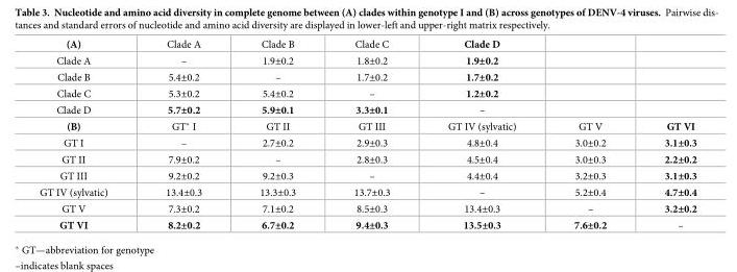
<table><tbody><tr><td>(A)</td><td>Clade A</td><td>Clade B</td><td>Clade C</td><td>Clade D</td><td></td><td></td></tr><tr><td>Clade A</td><td>–</td><td>1.9±0.2</td><td>1.8±0.2</td><td>1.9±0.2</td><td></td><td></td></tr><tr><td>Clade B</td><td>5.4±0.2</td><td>–</td><td>1.7±0.2</td><td>1.7±0.2</td><td></td><td></td></tr><tr><td>Clade C</td><td>5.3±0.2</td><td>5.4±0.2</td><td>–</td><td>1.2±0.2</td><td></td><td></td></tr><tr><td>Clade D</td><td>5.7±0.2</td><td>5.9±0.1</td><td>3.3±0.1</td><td>–</td><td></td><td></td></tr><tr><td>(B)</td><td>GT* I</td><td>GT II</td><td>GT III</td><td>GT IV (sylvatic)</td><td>GT V</td><td>GT VI</td></tr><tr><td>GT I</td><td>–</td><td>2.7±0.2</td><td>2.9±0.3</td><td>4.8±0.4</td><td>3.0±0.2</td><td>3.1±0.3</td></tr><tr><td>GT II</td><td>7.9±0.2</td><td>–</td><td>2.8±0.3</td><td>4.5±0.4</td><td>3.0±0.3</td><td>2.2±0.2</td></tr><tr><td>GT III</td><td>9.2±0.2</td><td>9.2±0.3</td><td>–</td><td>4.4±0.4</td><td>3.2±0.3</td><td>3.1±0.3</td></tr><tr><td>GT IV (sylvatic)</td><td>13.4±0.3</td><td>13.3±0.3</td><td>13.7±0.3</td><td>–</td><td>5.2±0.4</td><td>4.7±0.4</td></tr><tr><td>GT V</td><td>7.3±0.2</td><td>7.1±0.2</td><td>8.5±0.3</td><td>13.4±0.3</td><td>–</td><td>3.2±0.2</td></tr><tr><td>GT VI</td><td>8.2±0.2</td><td>6.7±0.2</td><td>9.4±0.3</td><td>13.5±0.3</td><td>7.6±0.2</td><td>–</td></tr></tbody></table>